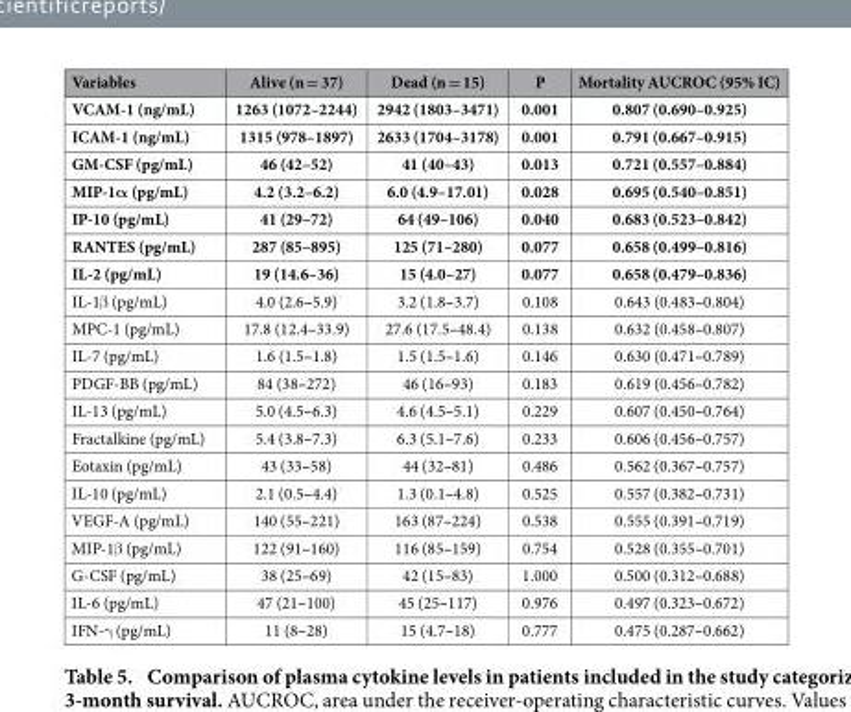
<table><thead><tr><td>Variables</td><td>Alive (n = 37)</td><td>Dead (n = 15)</td><td>P</td><td>Mortality AUCROC (95% IC)</td></tr></thead><tbody><tr><td>VCAM-1 (ng/mL)</td><td>1263 (1072–2244)</td><td>2942 (1803–3471)</td><td>0.001</td><td>0.807 (0.690–0.925)</td></tr><tr><td>ICAM-1 (ng/mL)</td><td>1315 (978–1897)</td><td>2633 (1704–3178)</td><td>0.001</td><td>0.791 (0.667–0.915)</td></tr><tr><td>GM-CSF (pg/mL)</td><td>46 (42–52)</td><td>41 (40–43)</td><td>0.013</td><td>0.721 (0.557–0.884)</td></tr><tr><td>MIP-1α (pg/mL)</td><td>4.2 (3.2–6.2)</td><td>6.0 (4.9–17.01)</td><td>0.028</td><td>0.695 (0.540–0.851)</td></tr><tr><td>IP-10 (pg/mL)</td><td>41 (29–72)</td><td>64 (49–106)</td><td>0.040</td><td>0.683 (0.523–0.842)</td></tr><tr><td>RANTES (pg/mL)</td><td>287 (85–895)</td><td>125 (71–280)</td><td>0.077</td><td>0.658 (0.499–0.816)</td></tr><tr><td>IL-2 (pg/mL)</td><td>19 (14.6–36)</td><td>15 (4.0–27)</td><td>0.077</td><td>0.658 (0.479–0.836)</td></tr><tr><td>IL-1β (pg/mL)</td><td>4.0 (2.6–5.9)</td><td>3.2 (1.8–3.7)</td><td>0.108</td><td>0.643 (0.483–0.804)</td></tr><tr><td>MPC-1 (pg/mL)</td><td>17.8 (12.4–33.9)</td><td>27.6 (17.5–48.4)</td><td>0.138</td><td>0.632 (0.458–0.807)</td></tr><tr><td>IL-7 (pg/mL)</td><td>1.6 (1.5–1.8)</td><td>1.5 (1.5–1.6)</td><td>0.146</td><td>0.630 (0.471–0.789)</td></tr><tr><td>PDGF-BB (pg/mL)</td><td>84 (38–272)</td><td>46 (16–93)</td><td>0.183</td><td>0.619 (0.456–0.782)</td></tr><tr><td>IL-13 (pg/mL)</td><td>5.0 (4.5–6.3)</td><td>4.6 (4.5–5.1)</td><td>0.229</td><td>0.607 (0.450–0.764)</td></tr><tr><td>Fractalkine (pg/mL)</td><td>5.4 (3.8–7.3)</td><td>6.3 (5.1–7.6)</td><td>0.233</td><td>0.606 (0.456–0.757)</td></tr><tr><td>Eotaxin (pg/mL)</td><td>43 (33–58)</td><td>44 (32–81)</td><td>0.486</td><td>0.562 (0.367–0.757)</td></tr><tr><td>IL-10 (pg/mL)</td><td>2.1 (0.5–4.4)</td><td>1.3 (0.1–4.8)</td><td>0.525</td><td>0.557 (0.382–0.731)</td></tr><tr><td>VEGF-A (pg/mL)</td><td>140 (55–221)</td><td>163 (87–224)</td><td>0.538</td><td>0.555 (0.391–0.719)</td></tr><tr><td>MIP-1β (pg/mL)</td><td>122 (91–160)</td><td>116 (85–159)</td><td>0.754</td><td>0.528 (0.355–0.701)</td></tr><tr><td>G-CSF (pg/mL)</td><td>38 (25–69)</td><td>42 (15–83)</td><td>1.000</td><td>0.500 (0.312–0.688)</td></tr><tr><td>IL-6 (pg/mL)</td><td>47 (21–100)</td><td>45 (25–117)</td><td>0.976</td><td>0.497 (0.323–0.672)</td></tr><tr><td>IFN-γ (pg/mL)</td><td>11 (8–28)</td><td>15 (4.7–18)</td><td>0.777</td><td>0.475 (0.287–0.662)</td></tr></tbody></table>